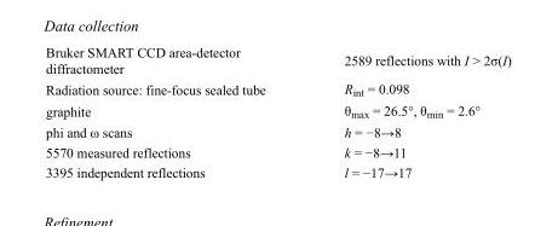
<table><tbody><tr><td>Bruker SMART CCD area-detector diffractometer</td><td>2589 reflections with I &gt; 2σ(I)</td></tr><tr><td>Radiation source: fine-focus sealed tube</td><td>R<sub>int</sub> = 0.098</td></tr><tr><td>graphite</td><td>θ<sub>max</sub> = 26.5°, θ<sub>min</sub> = 2.6°</td></tr><tr><td>phi and ω scans</td><td>h = −8→8</td></tr><tr><td>5570 measured reflections</td><td>k = −8→11</td></tr><tr><td>3395 independent reflections</td><td>l = −17→17</td></tr></tbody></table>